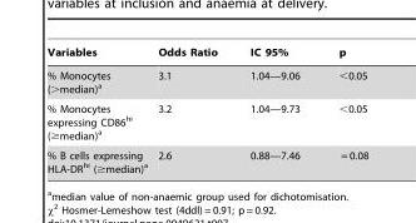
<table><thead><tr><td>Variables</td><td>Odds Ratio</td><td>IC 95%</td><td>p</td></tr></thead><tbody><tr><td>% Monocytes (&gt;median)<sup>a</sup></td><td>3.1</td><td>1.04—9.06</td><td>&lt;0.05</td></tr><tr><td>% Monocytes expressing CD86<sup>hi</sup> (≥median)<sup>a</sup></td><td>3.2</td><td>1.04—9.73</td><td>&lt;0.05</td></tr><tr><td>% B cells expressing HLA-DR<sup>hi</sup> (≥median)<sup>a</sup></td><td>2.6</td><td>0.88—7.46</td><td>= 0.08</td></tr></tbody></table>